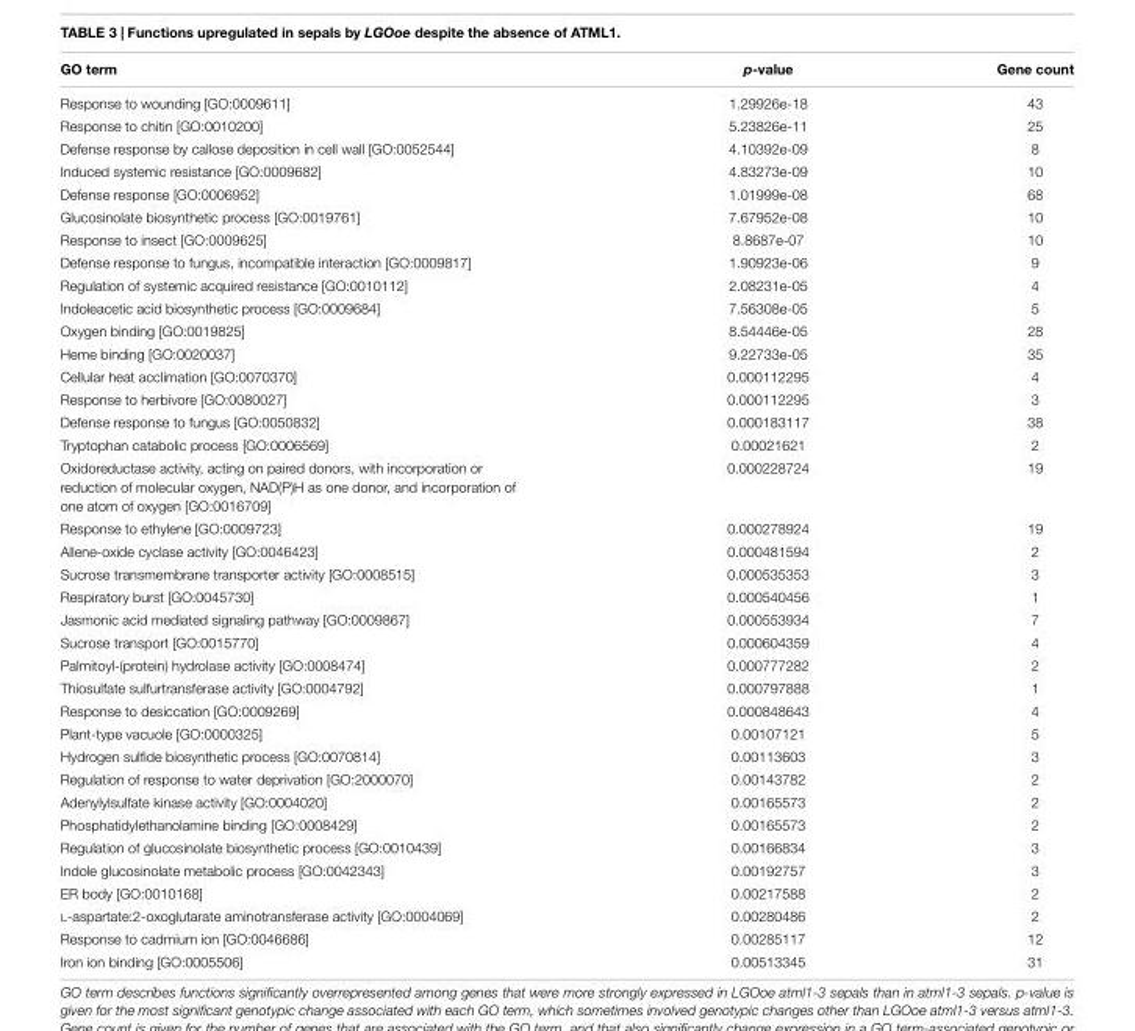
<table><thead><tr><td>GO term</td><td>p-value</td><td>Gene count</td></tr></thead><tbody><tr><td>Response to wounding [GO:0009611]</td><td>1.29926e-18</td><td>43</td></tr><tr><td>Response to chitin [GO:0010200]</td><td>5.23826e-11</td><td>25</td></tr><tr><td>Defense response by callose deposition in cell wall [GO:0052544]</td><td>4.10392e-09</td><td>8</td></tr><tr><td>Induced systemic resistance [GO:0009682]</td><td>4.83273e-09</td><td>10</td></tr><tr><td>Defense response [GO:0006952]</td><td>1.01999e-08</td><td>68</td></tr><tr><td>Glucosinolate biosynthetic process [GO:0019761]</td><td>7.67952e-08</td><td>10</td></tr><tr><td>Response to insect [GO:0009625]</td><td>8.8687e-07</td><td>10</td></tr><tr><td>Defense response to fungus, incompatible interaction [GO:0009817]</td><td>1.90923e-06</td><td>9</td></tr><tr><td>Regulation of systemic acquired resistance [GO:0010112]</td><td>2.08231e-05</td><td>4</td></tr><tr><td>Indoleacetic acid biosynthetic process [GO:0009684]</td><td>7.56308e-05</td><td>5</td></tr><tr><td>Oxygen binding [GO:0019825]</td><td>8.54446e-05</td><td>28</td></tr><tr><td>Heme binding [GO:0020037]</td><td>9.22733e-05</td><td>35</td></tr><tr><td>Cellular heat acclimation [GO:0070370]</td><td>0.000112295</td><td>4</td></tr><tr><td>Response to herbivore [GO:0080027]</td><td>0.000112295</td><td>3</td></tr><tr><td>Defense response to fungus [GO:0050832]</td><td>0.000183117</td><td>38</td></tr><tr><td>Tryptophan catabolic process [GO:0006569]</td><td>0.00021621</td><td>2</td></tr><tr><td>Oxidoreductase activity, acting on paired donors, with incorporation or reduction of molecular oxygen, NAD(P)H as one donor, and incorporation of one atom of oxygen [GO:0016709]</td><td>0.000228724</td><td>19</td></tr><tr><td>Response to ethylene [GO:0009723]</td><td>0.000278924</td><td>19</td></tr><tr><td>Allene-oxide cyclase activity [GO:0046423]</td><td>0.000481594</td><td>2</td></tr><tr><td>Sucrose transmembrane transporter activity [GO:0008515]</td><td>0.000535353</td><td>3</td></tr><tr><td>Respiratory burst [GO:0045730]</td><td>0.000540456</td><td>1</td></tr><tr><td>Jasmonic acid mediated signaling pathway [GO:0009867]</td><td>0.000553934</td><td>7</td></tr><tr><td>Sucrose transport [GO:0015770]</td><td>0.000604359</td><td>4</td></tr><tr><td>Palmitoyl-(protein) hydrolase activity [GO:0008474]</td><td>0.000777282</td><td>2</td></tr><tr><td>Thiosulfate sulfurtransferase activity [GO:0004792]</td><td>0.000797888</td><td>1</td></tr><tr><td>Response to desiccation [GO:0009269]</td><td>0.000848643</td><td>4</td></tr><tr><td>Plant-type vacuole [GO:0000325]</td><td>0.00107121</td><td>5</td></tr><tr><td>Hydrogen sulfide biosynthetic process [GO:0070814]</td><td>0.00113603</td><td>3</td></tr><tr><td>Regulation of response to water deprivation [GO:2000070]</td><td>0.00143782</td><td>2</td></tr><tr><td>Adenylylsulfate kinase activity [GO:0004020]</td><td>0.00165573</td><td>2</td></tr><tr><td>Phosphatidylethanolamine binding [GO:0008429]</td><td>0.00165573</td><td>2</td></tr><tr><td>Regulation of glucosinolate biosynthetic process [GO:0010439]</td><td>0.00166834</td><td>3</td></tr><tr><td>Indole glucosinolate metabolic process [GO:0042343]</td><td>0.00192757</td><td>3</td></tr><tr><td>ER body [GO:0010168]</td><td>0.00217588</td><td>2</td></tr><tr><td>L-aspartate:2-oxoglutarate aminotransferase activity [GO:0004069]</td><td>0.00280486</td><td>2</td></tr><tr><td>Response to cadmium ion [GO:0046686]</td><td>0.00285117</td><td>12</td></tr><tr><td>Iron ion binding [GO:0005506]</td><td>0.00513345</td><td>31</td></tr></tbody></table>